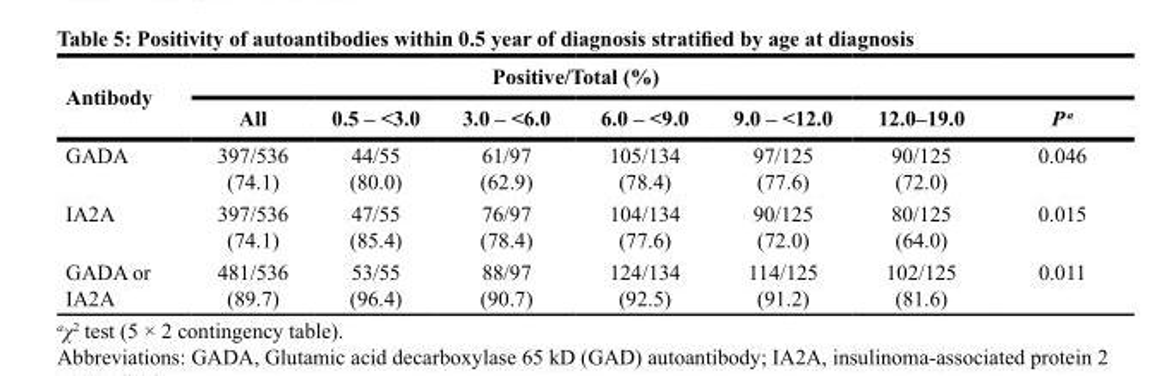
<table><thead><tr><td rowspan="2">Antibody</td><td rowspan="2">All</td><td rowspan="2">0.5 – &lt;3.0</td><td colspan="2">Positive/Total (%)</td><td rowspan="2">9.0 – &lt;12.0</td><td rowspan="2">12.0–19.0</td><td rowspan="2">P <sup>a</sup></td></tr><tr><td>3.0 – &lt;6.0</td><td>6.0 – &lt;9.0</td></tr></thead><tbody><tr><td>GADA</td><td>397/536 (74.1)</td><td>44/55 (80.0)</td><td>61/97 (62.9)</td><td>105/134 (78.4)</td><td>97/125 (77.6)</td><td>90/125 (72.0)</td><td>0.046</td></tr><tr><td>IA2A</td><td>397/536 (74.1)</td><td>47/55 (85.4)</td><td>76/97 (78.4)</td><td>104/134 (77.6)</td><td>90/125 (72.0)</td><td>80/125 (64.0)</td><td>0.015</td></tr><tr><td>GADA or IA2A</td><td>481/536 (89.7)</td><td>53/55 (96.4)</td><td>88/97 (90.7)</td><td>124/134 (92.5)</td><td>114/125 (91.2)</td><td>102/125 (81.6)</td><td>0.011</td></tr></tbody></table>